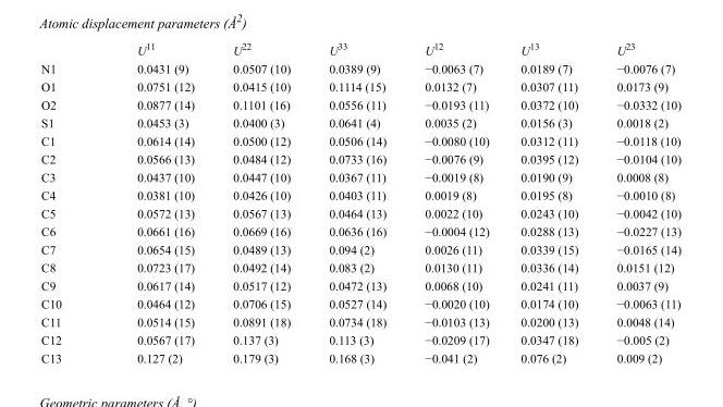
<table><thead><tr><td></td><td>U<sup>11</sup></td><td>U<sup>22</sup></td><td>U<sup>33</sup></td><td>U<sup>12</sup></td><td>U<sup>13</sup></td><td>U<sup>23</sup></td></tr></thead><tbody><tr><td>N1</td><td>0.0431 (9)</td><td>0.0507 (10)</td><td>0.0389 (9)</td><td>−0.0063 (7)</td><td>0.0189 (7)</td><td>−0.0076 (7)</td></tr><tr><td>O1</td><td>0.0751 (12)</td><td>0.0415 (10)</td><td>0.1114 (15)</td><td>0.0132 (7)</td><td>0.0307 (11)</td><td>0.0173 (9)</td></tr><tr><td>O2</td><td>0.0877 (14)</td><td>0.1101 (16)</td><td>0.0556 (11)</td><td>−0.0193 (11)</td><td>0.0372 (10)</td><td>−0.0332 (10)</td></tr><tr><td>S1</td><td>0.0453 (3)</td><td>0.0400 (3)</td><td>0.0641 (4)</td><td>0.0035 (2)</td><td>0.0156 (3)</td><td>0.0018 (2)</td></tr><tr><td>C1</td><td>0.0614 (14)</td><td>0.0500 (12)</td><td>0.0506 (14)</td><td>−0.0080 (10)</td><td>0.0312 (11)</td><td>−0.0118 (10)</td></tr><tr><td>C2</td><td>0.0566 (13)</td><td>0.0484 (12)</td><td>0.0733 (16)</td><td>−0.0076 (9)</td><td>0.0395 (12)</td><td>−0.0104 (10)</td></tr><tr><td>C3</td><td>0.0437 (10)</td><td>0.0447 (10)</td><td>0.0367 (11)</td><td>−0.0019 (8)</td><td>0.0190 (9)</td><td>0.0008 (8)</td></tr><tr><td>C4</td><td>0.0381 (10)</td><td>0.0426 (10)</td><td>0.0403 (11)</td><td>0.0019 (8)</td><td>0.0195 (8)</td><td>−0.0010 (8)</td></tr><tr><td>C5</td><td>0.0572 (13)</td><td>0.0567 (13)</td><td>0.0464 (13)</td><td>0.0022 (10)</td><td>0.0243 (10)</td><td>−0.0042 (10)</td></tr><tr><td>C6</td><td>0.0661 (16)</td><td>0.0669 (16)</td><td>0.0636 (16)</td><td>−0.0004 (12)</td><td>0.0288 (13)</td><td>−0.0227 (13)</td></tr><tr><td>C7</td><td>0.0654 (15)</td><td>0.0489 (13)</td><td>0.094 (2)</td><td>0.0026 (11)</td><td>0.0339 (15)</td><td>−0.0165 (14)</td></tr><tr><td>C8</td><td>0.0723 (17)</td><td>0.0492 (14)</td><td>0.083 (2)</td><td>0.0130 (11)</td><td>0.0336 (14)</td><td>0.0151 (12)</td></tr><tr><td>C9</td><td>0.0617 (14)</td><td>0.0517 (12)</td><td>0.0472 (13)</td><td>0.0068 (10)</td><td>0.0241 (11)</td><td>0.0037 (9)</td></tr><tr><td>C10</td><td>0.0464 (12)</td><td>0.0706 (15)</td><td>0.0527 (14)</td><td>−0.0020 (10)</td><td>0.0174 (10)</td><td>−0.0063 (11)</td></tr><tr><td>C11</td><td>0.0514 (15)</td><td>0.0891 (18)</td><td>0.0734 (18)</td><td>−0.0103 (13)</td><td>0.0200 (13)</td><td>0.0048 (14)</td></tr><tr><td>C12</td><td>0.0567 (17)</td><td>0.137 (3)</td><td>0.113 (3)</td><td>−0.0209 (17)</td><td>0.0347 (18)</td><td>−0.005 (2)</td></tr><tr><td>C13</td><td>0.127 (2)</td><td>0.179 (3)</td><td>0.168 (3)</td><td>−0.041 (2)</td><td>0.076 (2)</td><td>0.009 (2)</td></tr></tbody></table>